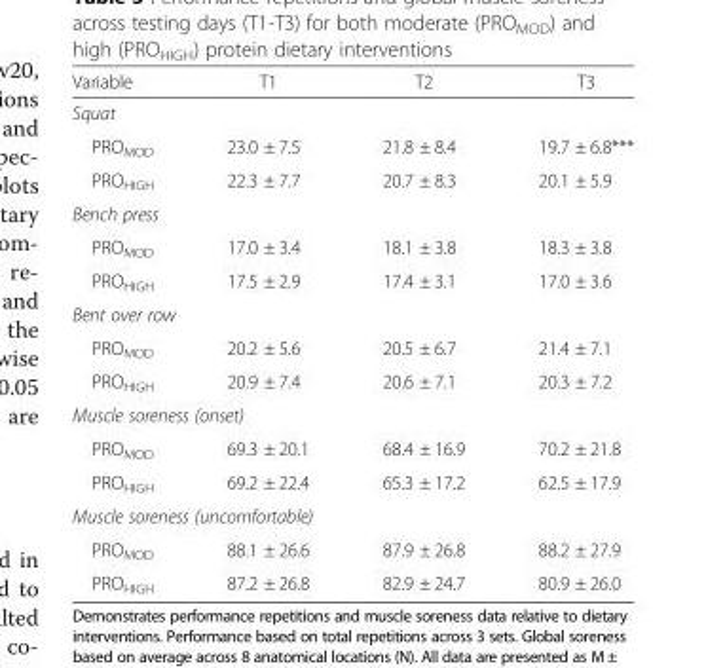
<table><thead><tr><td>Variable</td><td>T1</td><td>T2</td><td>T3</td></tr></thead><tbody><tr><td colspan="4">Squat</td></tr><tr><td>PRO<sub>MOD</sub></td><td>23.0 ± 7.5</td><td>21.8 ± 8.4</td><td>19.7 ± 6.8***</td></tr><tr><td>PRO<sub>HIGH</sub></td><td>22.3 ± 7.7</td><td>20.7 ± 8.3</td><td>20.1 ± 5.9</td></tr><tr><td colspan="4">Bench press</td></tr><tr><td>PRO<sub>MOD</sub></td><td>17.0 ± 3.4</td><td>18.1 ± 3.8</td><td>18.3 ± 3.8</td></tr><tr><td>PRO<sub>HIGH</sub></td><td>17.5 ± 2.9</td><td>17.4 ± 3.1</td><td>17.0 ± 3.6</td></tr><tr><td colspan="4">Bent over row</td></tr><tr><td>PRO<sub>MOD</sub></td><td>20.2 ± 5.6</td><td>20.5 ± 6.7</td><td>21.4 ± 7.1</td></tr><tr><td>PRO<sub>HIGH</sub></td><td>20.9 ± 7.4</td><td>20.6 ± 7.1</td><td>20.3 ± 7.2</td></tr><tr><td colspan="4">Muscle soreness (onset)</td></tr><tr><td>PRO<sub>MOD</sub></td><td>69.3 ± 20.1</td><td>68.4 ± 16.9</td><td>70.2 ± 21.8</td></tr><tr><td>PRO<sub>HIGH</sub></td><td>69.2 ± 22.4</td><td>65.3 ± 17.2</td><td>62.5 ± 17.9</td></tr><tr><td colspan="4">Muscle soreness (uncomfortable)</td></tr><tr><td>PRO<sub>MOD</sub></td><td>88.1 ± 26.6</td><td>87.9 ± 26.8</td><td>88.2 ± 27.9</td></tr><tr><td>PRO<sub>HIGH</sub></td><td>87.2 ± 26.8</td><td>82.9 ± 24.7</td><td>80.9 ± 26.0</td></tr></tbody></table>